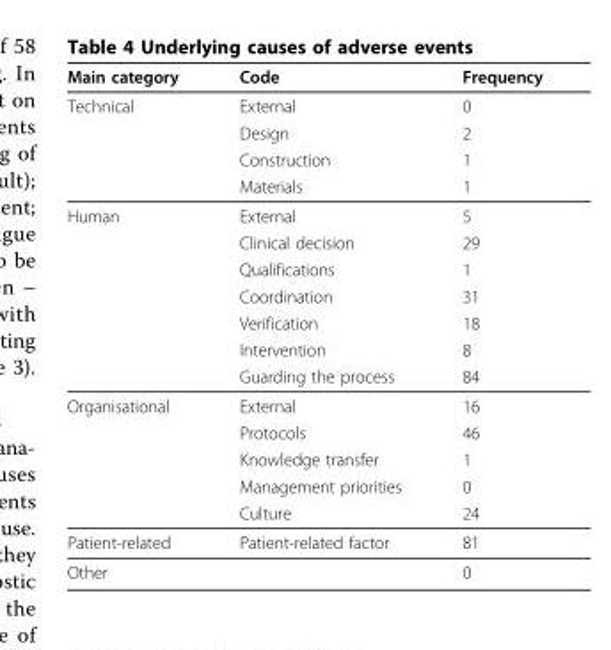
<table><thead><tr><td>Main category</td><td>Code</td><td>Frequency</td></tr></thead><tbody><tr><td rowspan="4">Technical</td><td>External</td><td>0</td></tr><tr><td>Design</td><td>2</td></tr><tr><td>Construction</td><td>1</td></tr><tr><td>Materials</td><td>1</td></tr><tr><td rowspan="7">Human</td><td>External</td><td>5</td></tr><tr><td>Clinical decision</td><td>29</td></tr><tr><td>Qualifications</td><td>1</td></tr><tr><td>Coordination</td><td>31</td></tr><tr><td>Verification</td><td>18</td></tr><tr><td>Intervention</td><td>8</td></tr><tr><td>Guarding the process</td><td>84</td></tr><tr><td rowspan="5">Organisational</td><td>External</td><td>16</td></tr><tr><td>Protocols</td><td>46</td></tr><tr><td>Knowledge transfer</td><td>1</td></tr><tr><td>Management priorities</td><td>0</td></tr><tr><td>Culture</td><td>24</td></tr><tr><td>Patient-related</td><td>Patient-related factor</td><td>81</td></tr><tr><td>Other</td><td></td><td>0</td></tr></tbody></table>